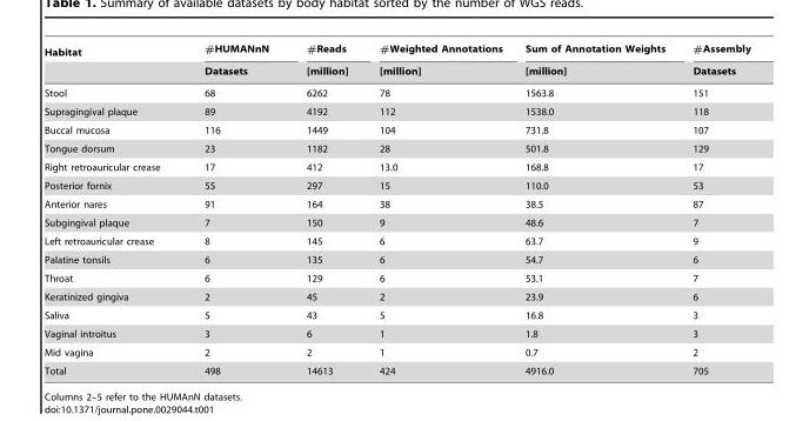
<table><thead><tr><td rowspan="2">Habitat</td><td rowspan="2">#HUMANnN Datasets</td><td rowspan="2">#Reads [million]</td><td rowspan="2">#Weighted Annotations [million]</td><td rowspan="2">Sum of Annotation Weights [million]</td><td rowspan="2">#Assembly Datasets</td></tr><tr></tr></thead><tbody><tr><td>Stool</td><td>68</td><td>6262</td><td>78</td><td>1563.8</td><td>151</td></tr><tr><td>Supragingival plaque</td><td>89</td><td>4192</td><td>112</td><td>1538.0</td><td>118</td></tr><tr><td>Buccal mucosa</td><td>116</td><td>1449</td><td>104</td><td>731.8</td><td>107</td></tr><tr><td>Tongue dorsum</td><td>23</td><td>1182</td><td>28</td><td>501.8</td><td>129</td></tr><tr><td>Right retroauricular crease</td><td>17</td><td>412</td><td>13.0</td><td>168.8</td><td>17</td></tr><tr><td>Posterior fornix</td><td>55</td><td>297</td><td>15</td><td>110.0</td><td>53</td></tr><tr><td>Anterior nares</td><td>91</td><td>164</td><td>38</td><td>38.5</td><td>87</td></tr><tr><td>Subgingival plaque</td><td>7</td><td>150</td><td>9</td><td>48.6</td><td>7</td></tr><tr><td>Left retroauricular crease</td><td>8</td><td>145</td><td>6</td><td>63.7</td><td>9</td></tr><tr><td>Palatine tonsils</td><td>6</td><td>135</td><td>6</td><td>54.7</td><td>6</td></tr><tr><td>Throat</td><td>6</td><td>129</td><td>6</td><td>53.1</td><td>7</td></tr><tr><td>Keratinized gingiva</td><td>2</td><td>45</td><td>2</td><td>23.9</td><td>6</td></tr><tr><td>Saliva</td><td>5</td><td>43</td><td>5</td><td>16.8</td><td>3</td></tr><tr><td>Vaginal introitus</td><td>3</td><td>6</td><td>1</td><td>1.8</td><td>3</td></tr><tr><td>Mid vagina</td><td>2</td><td>2</td><td>1</td><td>0.7</td><td>2</td></tr><tr><td>Total</td><td>498</td><td>14613</td><td>424</td><td>4916.0</td><td>705</td></tr></tbody></table>